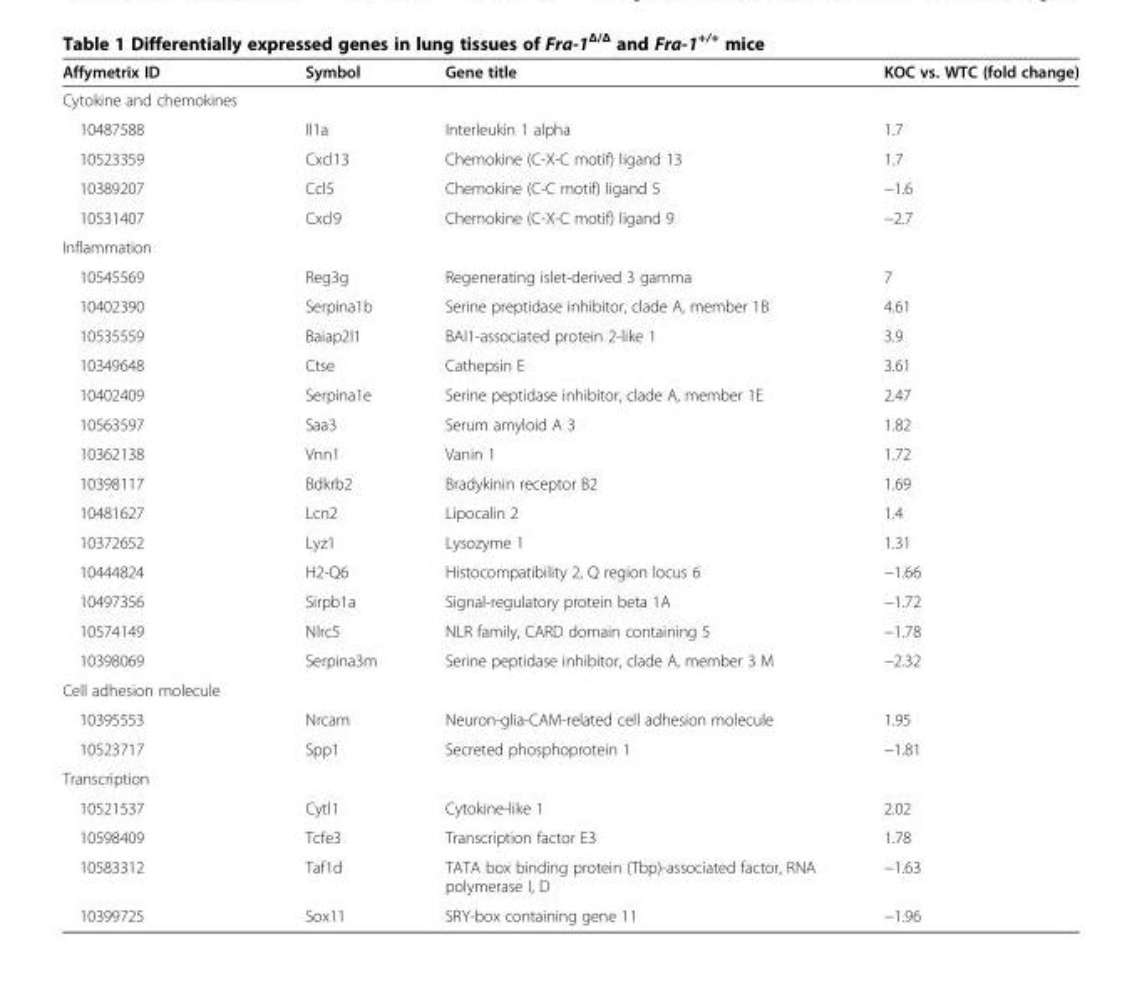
<table><thead><tr><td>Affymetrix ID</td><td>Symbol</td><td>Gene title</td><td>KOC vs. WTC (fold change)</td></tr></thead><tbody><tr><td colspan="4">Cytokine and chemokines</td></tr><tr><td>10487588</td><td>Il1a</td><td>Interleukin 1 alpha</td><td>1.7</td></tr><tr><td>10523359</td><td>Cxcl13</td><td>Chemokine (C-X-C motif) ligand 13</td><td>1.7</td></tr><tr><td>10389207</td><td>Ccl5</td><td>Chemokine (C-C motif) ligand 5</td><td>−1.6</td></tr><tr><td>10531407</td><td>Cxcl9</td><td>Chemokine (C-X-C motif) ligand 9</td><td>−2.7</td></tr><tr><td colspan="4">Inflammation</td></tr><tr><td>10545569</td><td>Reg3g</td><td>Regenerating islet-derived 3 gamma</td><td>7</td></tr><tr><td>10402390</td><td>Serpina1b</td><td>Serine preptidase inhibitor, clade A, member 1B</td><td>4.61</td></tr><tr><td>10535559</td><td>Baiap2l1</td><td>BAI1-associated protein 2-like 1</td><td>3.9</td></tr><tr><td>10349648</td><td>Ctse</td><td>Cathepsin E</td><td>3.61</td></tr><tr><td>10402409</td><td>Serpina1e</td><td>Serine peptidase inhibitor, clade A, member 1E</td><td>2.47</td></tr><tr><td>10563597</td><td>Saa3</td><td>Serum amyloid A 3</td><td>1.82</td></tr><tr><td>10362138</td><td>Vnn1</td><td>Vanin 1</td><td>1.72</td></tr><tr><td>10398117</td><td>Bdkrb2</td><td>Bradykinin receptor B2</td><td>1.69</td></tr><tr><td>10481627</td><td>Lcn2</td><td>Lipocalin 2</td><td>1.4</td></tr><tr><td>10372652</td><td>Lyz1</td><td>Lysozyme 1</td><td>1.31</td></tr><tr><td>10444824</td><td>H2-Q6</td><td>Histocompatibility 2, Q region locus 6</td><td>−1.66</td></tr><tr><td>10497356</td><td>Sirpb1a</td><td>Signal-regulatory protein beta 1A</td><td>−1.72</td></tr><tr><td>10574149</td><td>Nlrc5</td><td>NLR family, CARD domain containing 5</td><td>−1.78</td></tr><tr><td>10398069</td><td>Serpina3m</td><td>Serine peptidase inhibitor, clade A, member 3 M</td><td>−2.32</td></tr><tr><td colspan="4">Cell adhesion molecule</td></tr><tr><td>10395553</td><td>Nrcam</td><td>Neuron-glia-CAM-related cell adhesion molecule</td><td>1.95</td></tr><tr><td>10523717</td><td>Spp1</td><td>Secreted phosphoprotein 1</td><td>−1.81</td></tr><tr><td colspan="4">Transcription</td></tr><tr><td>10521537</td><td>Cytl1</td><td>Cytokine-like 1</td><td>2.02</td></tr><tr><td>10598409</td><td>Tcfe3</td><td>Transcription factor E3</td><td>1.78</td></tr><tr><td>10583312</td><td>Taf1d</td><td>TATA box binding protein (Tbp)-associated factor, RNA polymerase I, D</td><td>−1.63</td></tr><tr><td>10399725</td><td>Sox11</td><td>SRY-box containing gene 11</td><td>−1.96</td></tr></tbody></table>